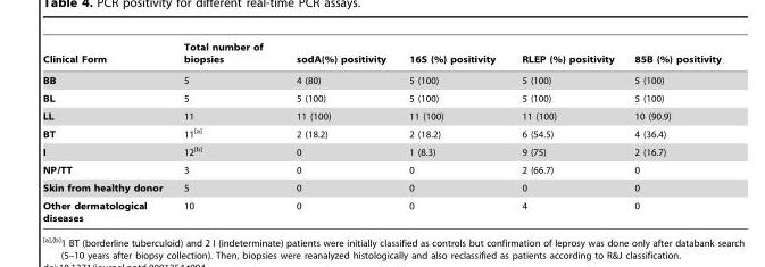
<table><thead><tr><td>Clinical Form</td><td>Total number of biopsies</td><td>sodA(%) positivity</td><td>16S (%) positivity</td><td>RLEP (%) positivity</td><td>85B (%) positivity</td></tr></thead><tbody><tr><td>BB</td><td>5</td><td>4 (80)</td><td>5 (100)</td><td>5 (100)</td><td>5 (100)</td></tr><tr><td>BL</td><td>5</td><td>5 (100)</td><td>5 (100)</td><td>5 (100)</td><td>5 (100)</td></tr><tr><td>LL</td><td>11</td><td>11 (100)</td><td>11 (100)</td><td>11 (100)</td><td>10 (90.9)</td></tr><tr><td>BT</td><td>11[a]</td><td>2 (18.2)</td><td>2 (18.2)</td><td>6 (54.5)</td><td>4 (36.4)</td></tr><tr><td>I</td><td>12[b]</td><td>0</td><td>1 (8.3)</td><td>9 (75)</td><td>2 (16.7)</td></tr><tr><td>NP/TT</td><td>3</td><td>0</td><td>0</td><td>2 (66.7)</td><td>0</td></tr><tr><td>Skin from healthy donor</td><td>5</td><td>0</td><td>0</td><td>0</td><td>0</td></tr><tr><td>Other dermatological diseases</td><td>10</td><td>0</td><td>0</td><td>4</td><td>0</td></tr></tbody></table>